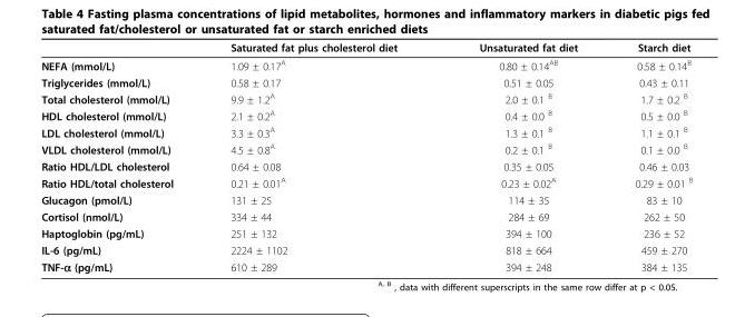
<table><thead><tr><td></td><td>Saturated fat plus cholesterol diet</td><td>Unsaturated fat diet</td><td>Starch diet</td></tr></thead><tbody><tr><td>NEFA (mmol/L)</td><td>1.09 ± 0.17<sup>A</sup></td><td>0.80 ± 0.14<sup>AB</sup></td><td>0.58 ± 0.14<sup>B</sup></td></tr><tr><td>Triglycerides (mmol/L)</td><td>0.58 ± 0.17</td><td>0.51 ± 0.05</td><td>0.43 ± 0.11</td></tr><tr><td>Total cholesterol (mmol/L)</td><td>9.9 ± 1.2<sup>A</sup></td><td>2.0 ± 0.1 <sup>B</sup></td><td>1.7 ± 0.2 <sup>B</sup></td></tr><tr><td>HDL cholesterol (mmol/L)</td><td>2.1 ± 0.2<sup>A</sup></td><td>0.4 ± 0.0 <sup>B</sup></td><td>0.5 ± 0.0 <sup>B</sup></td></tr><tr><td>LDL cholesterol (mmol/L)</td><td>3.3 ± 0.3<sup>A</sup></td><td>1.3 ± 0.1 <sup>B</sup></td><td>1.1 ± 0.1 <sup>B</sup></td></tr><tr><td>VLDL cholesterol (mmol/L)</td><td>4.5 ± 0.8<sup>A</sup></td><td>0.2 ± 0.1 <sup>B</sup></td><td>0.1 ± 0.0 <sup>B</sup></td></tr><tr><td>Ratio HDL/LDL cholesterol</td><td>0.64 ± 0.08</td><td>0.35 ± 0.05</td><td>0.46 ± 0.03</td></tr><tr><td>Ratio HDL/total cholesterol</td><td>0.21 ± 0.01<sup>A</sup></td><td>0.23 ± 0.02<sup>A</sup></td><td>0.29 ± 0.01 <sup>B</sup></td></tr><tr><td>Glucagon (pmol/L)</td><td>131 ± 25</td><td>114 ± 35</td><td>83 ± 10</td></tr><tr><td>Cortisol (nmol/L)</td><td>334 ± 44</td><td>284 ± 69</td><td>262 ± 50</td></tr><tr><td>Haptoglobin (pg/mL)</td><td>251 ± 132</td><td>394 ± 100</td><td>236 ± 52</td></tr><tr><td>IL-6 (pg/mL)</td><td>2224 ± 1102</td><td>818 ± 664</td><td>459 ± 270</td></tr><tr><td>TNF-α (pg/mL)</td><td>610 ± 289</td><td>394 ± 248</td><td>384 ± 135</td></tr></tbody></table>